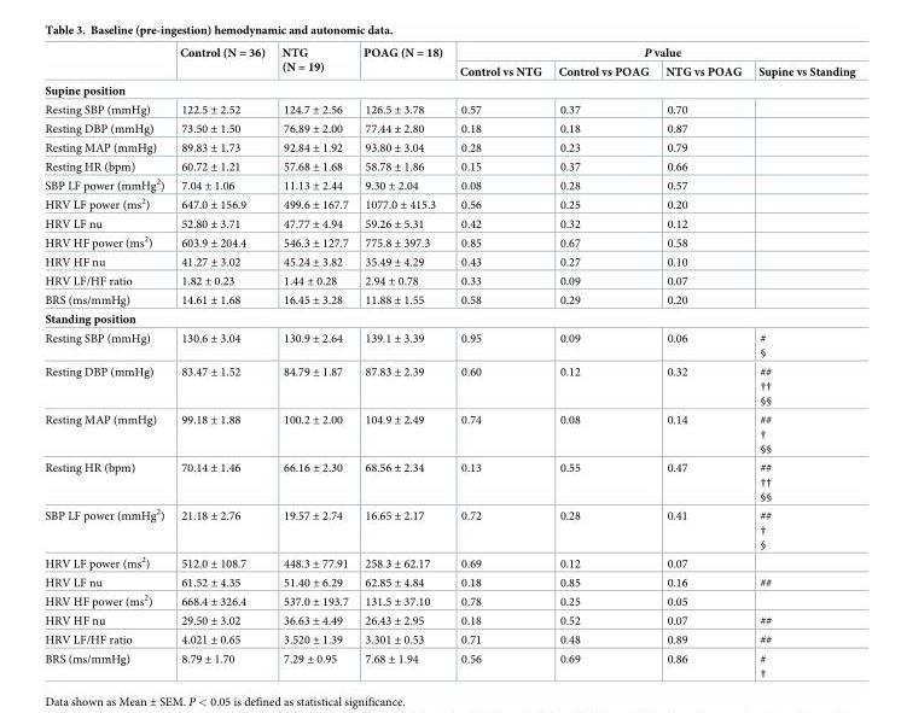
<table><thead><tr><td rowspan="2"></td><td rowspan="2">Control (N = 36)</td><td rowspan="2">NTG (N = 19)</td><td rowspan="2">POAG (N = 18)</td><td colspan="4">P value</td></tr><tr><td>Control vs NTG</td><td>Control vs POAG</td><td>NTG vs POAG</td><td>Supine vs Standing</td></tr></thead><tbody><tr><td colspan="8">Supine position</td></tr><tr><td>Resting SBP (mmHg)</td><td>122.5 ± 2.52</td><td>124.7 ± 2.56</td><td>126.5 ± 3.78</td><td>0.57</td><td>0.37</td><td>0.70</td><td></td></tr><tr><td>Resting DBP (mmHg)</td><td>73.50 ± 1.50</td><td>76.89 ± 2.00</td><td>77.44 ± 2.80</td><td>0.18</td><td>0.18</td><td>0.87</td><td></td></tr><tr><td>Resting MAP (mmHg)</td><td>89.83 ± 1.73</td><td>92.84 ± 1.92</td><td>93.80 ± 3.04</td><td>0.28</td><td>0.23</td><td>0.79</td><td></td></tr><tr><td>Resting HR (bpm)</td><td>60.72 ± 1.21</td><td>57.68 ± 1.68</td><td>58.78 ± 1.86</td><td>0.15</td><td>0.37</td><td>0.66</td><td></td></tr><tr><td>SBP LF power (mmHg<sup>2</sup>)</td><td>7.04 ± 1.06</td><td>11.13 ± 2.44</td><td>9.30 ± 2.04</td><td>0.08</td><td>0.28</td><td>0.57</td><td></td></tr><tr><td>HRV LF power (ms<sup>2</sup>)</td><td>647.0 ± 156.9</td><td>499.6 ± 167.7</td><td>1077.0 ± 415.3</td><td>0.56</td><td>0.25</td><td>0.20</td><td></td></tr><tr><td>HRV LF nu</td><td>52.80 ± 3.71</td><td>47.77 ± 4.94</td><td>59.26 ± 5.31</td><td>0.42</td><td>0.32</td><td>0.12</td><td></td></tr><tr><td>HRV HF power (ms<sup>2</sup>)</td><td>603.9 ± 204.4</td><td>546.3 ± 127.7</td><td>775.8 ± 397.3</td><td>0.85</td><td>0.67</td><td>0.58</td><td></td></tr><tr><td>HRV HF nu</td><td>41.27 ± 3.02</td><td>45.24 ± 3.82</td><td>35.49 ± 4.29</td><td>0.43</td><td>0.27</td><td>0.10</td><td></td></tr><tr><td>HRV LF/HF ratio</td><td>1.82 ± 0.23</td><td>1.44 ± 0.28</td><td>2.94 ± 0.78</td><td>0.33</td><td>0.09</td><td>0.07</td><td></td></tr><tr><td>BRS (ms/mmHg)</td><td>14.61 ± 1.68</td><td>16.45 ± 3.28</td><td>11.88 ± 1.55</td><td>0.58</td><td>0.29</td><td>0.20</td><td></td></tr><tr><td colspan="8">Standing position</td></tr><tr><td>Resting SBP (mmHg)</td><td>130.6 ± 3.04</td><td>130.9 ± 2.64</td><td>139.1 ± 3.39</td><td>0.95</td><td>0.09</td><td>0.06</td><td># §</td></tr><tr><td>Resting DBP (mmHg)</td><td>83.47 ± 1.52</td><td>84.79 ± 1.87</td><td>87.83 ± 2.39</td><td>0.60</td><td>0.12</td><td>0.32</td><td>## †† §§</td></tr><tr><td>Resting MAP (mmHg)</td><td>99.18 ± 1.88</td><td>100.2 ± 2.00</td><td>104.9 ± 2.49</td><td>0.74</td><td>0.08</td><td>0.14</td><td>## † §§</td></tr><tr><td>Resting HR (bpm)</td><td>70.14 ± 1.46</td><td>66.16 ± 2.30</td><td>68.56 ± 2.34</td><td>0.13</td><td>0.55</td><td>0.47</td><td>## †† §§</td></tr><tr><td>SBP LF power (mmHg<sup>2</sup>)</td><td>21.18 ± 2.76</td><td>19.57 ± 2.74</td><td>16.65 ± 2.17</td><td>0.72</td><td>0.28</td><td>0.41</td><td>## † §</td></tr><tr><td>HRV LF power (ms<sup>2</sup>)</td><td>512.0 ± 108.7</td><td>448.3 ± 77.91</td><td>258.3 ± 62.17</td><td>0.69</td><td>0.12</td><td>0.07</td><td></td></tr><tr><td>HRV LF nu</td><td>61.52 ± 4.35</td><td>51.40 ± 6.29</td><td>62.85 ± 4.84</td><td>0.18</td><td>0.85</td><td>0.16</td><td>##</td></tr><tr><td>HRV HF power (ms<sup>2</sup>)</td><td>668.4 ± 326.4</td><td>537.0 ± 193.7</td><td>131.5 ± 37.10</td><td>0.78</td><td>0.25</td><td>0.05</td><td></td></tr><tr><td>HRV HF nu</td><td>29.50 ± 3.02</td><td>36.63 ± 4.49</td><td>26.43 ± 2.95</td><td>0.18</td><td>0.52</td><td>0.07</td><td>##</td></tr><tr><td>HRV LF/HF ratio</td><td>4.021 ± 0.65</td><td>3.520 ± 1.39</td><td>3.301 ± 0.53</td><td>0.71</td><td>0.48</td><td>0.89</td><td>##</td></tr><tr><td>BRS (ms/mmHg)</td><td>8.79 ± 1.70</td><td>7.29 ± 0.95</td><td>7.68 ± 1.94</td><td>0.56</td><td>0.69</td><td>0.86</td><td>#</td></tr></tbody></table>